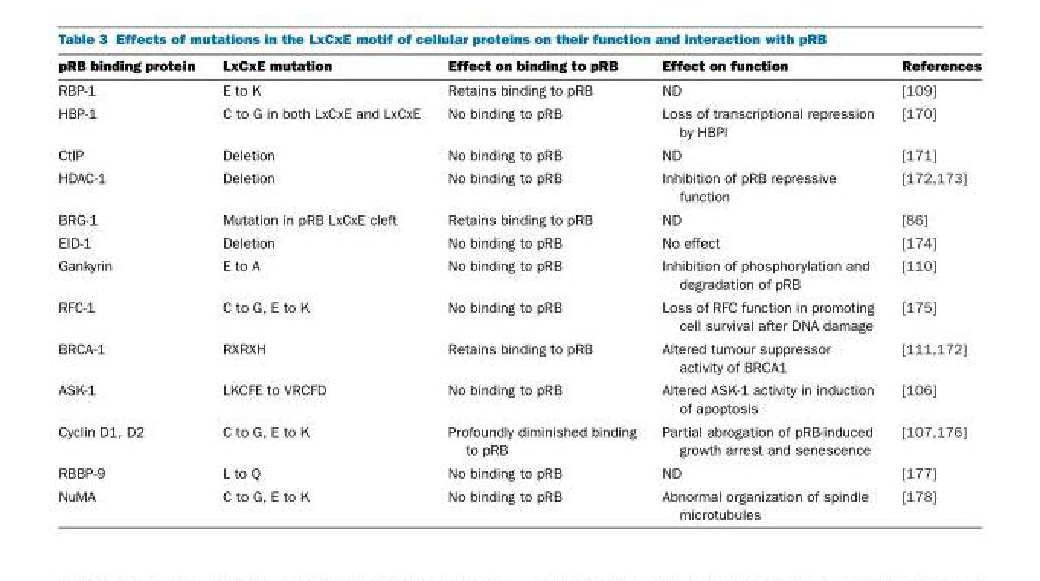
<table><thead><tr><td>pRB binding protein</td><td>LxCxE mutation</td><td>Effect on binding to pRB</td><td>Effect on function</td><td>References</td></tr></thead><tbody><tr><td>RBP-1</td><td>E to K</td><td>Retains binding to pRB</td><td>ND</td><td>[109]</td></tr><tr><td>HBP-1</td><td>C to G in both LxCxE and LxCxE</td><td>No binding to pRB</td><td>Loss of transcriptional repression by HBPl</td><td>[170]</td></tr><tr><td>CtIP</td><td>Deletion</td><td>No binding to pRB</td><td>ND</td><td>[171]</td></tr><tr><td>HDAC-1</td><td>Deletion</td><td>No binding to pRB</td><td>Inhibition of pRB repressive function</td><td>[172,173]</td></tr><tr><td>BRG-1</td><td>Mutation in pRB LxCxE cleft</td><td>Retains binding to pRB</td><td>ND</td><td>[86]</td></tr><tr><td>EID-1</td><td>Deletion</td><td>No binding to pRB</td><td>No effect</td><td>[174]</td></tr><tr><td>Gankyrin</td><td>E to A</td><td>No binding to pRB</td><td>Inhibition of phosphorylation and degradation of pRB</td><td>[110]</td></tr><tr><td>RFC-1</td><td>C to G, E to K</td><td>No binding to pRB</td><td>Loss of RFC function in promoting cell survival after DNA damage</td><td>[175]</td></tr><tr><td>BRCA-1</td><td>RXRXH</td><td>Retains binding to pRB</td><td>Altered tumour suppressor activity of BRCA1</td><td>[111,172]</td></tr><tr><td>ASK-1</td><td>LKCFE to VRCFD</td><td>No binding to pRB</td><td>Altered ASK-1 activity in induction of apoptosis</td><td>[106]</td></tr><tr><td>Cyclin D1, D2</td><td>C to G, E to K</td><td>Profoundly diminished binding to pRB</td><td>Partial abrogation of pRB-induced growth arrest and senescence</td><td>[107,176]</td></tr><tr><td>RBBP-9</td><td>L to Q</td><td>No binding to pRB</td><td>ND</td><td>[177]</td></tr><tr><td>NuMA</td><td>C to G, E to K</td><td>No binding to pRB</td><td>Abnormal organization of spindle microtubules</td><td>[178]</td></tr></tbody></table>